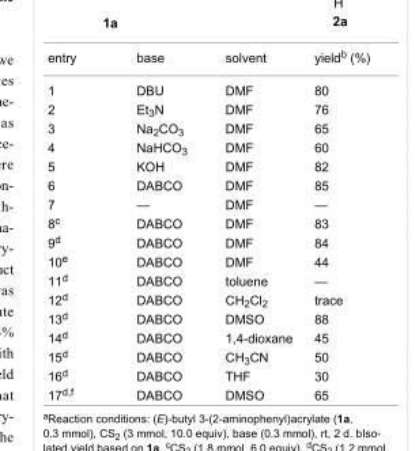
<table><tbody><tr><td>entry</td><td>base</td><td>solvent</td><td>yield<sup>b</sup> (%)</td></tr><tr><td>1</td><td>DBU</td><td>DMF</td><td>80</td></tr><tr><td>2</td><td>Et<sub>3</sub>N</td><td>DMF</td><td>76</td></tr><tr><td>3</td><td>Na<sub>2</sub>CO<sub>3</sub></td><td>DMF</td><td>65</td></tr><tr><td>4</td><td>NaHCO<sub>3</sub></td><td>DMF</td><td>60</td></tr><tr><td>5</td><td>KOH</td><td>DMF</td><td>82</td></tr><tr><td>6</td><td>DABCO</td><td>DMF</td><td>85</td></tr><tr><td>7</td><td>—</td><td>DMF</td><td>—</td></tr><tr><td>8<sup>c</sup></td><td>DABCO</td><td>DMF</td><td>83</td></tr><tr><td>9<sup>d</sup></td><td>DABCO</td><td>DMF</td><td>84</td></tr><tr><td>10<sup>e</sup></td><td>DABCO</td><td>DMF</td><td>44</td></tr><tr><td>11<sup>d</sup></td><td>DABCO</td><td>toluene</td><td>—</td></tr><tr><td>12<sup>d</sup></td><td>DABCO</td><td>CH<sub>2</sub>Cl<sub>2</sub></td><td>trace</td></tr><tr><td>13<sup>d</sup></td><td>DABCO</td><td>DMSO</td><td>88</td></tr><tr><td>14<sup>d</sup></td><td>DABCO</td><td>1,4-dioxane</td><td>45</td></tr><tr><td>15<sup>d</sup></td><td>DABCO</td><td>CH<sub>3</sub>CN</td><td>50</td></tr><tr><td>16<sup>d</sup></td><td>DABCO</td><td>THF</td><td>30</td></tr><tr><td>17<sup>d,f</sup></td><td>DABCO</td><td>DMSO</td><td>65</td></tr></tbody></table>